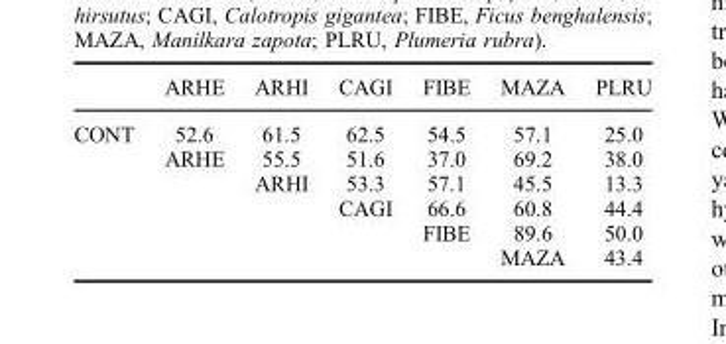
<table><thead><tr><td></td><td>ARHE</td><td>ARHI</td><td>CAGI</td><td>FIBE</td><td>MAZA</td><td>PLRU</td></tr></thead><tbody><tr><td rowspan="6">CONT</td><td>52.6</td><td>61.5</td><td>62.5</td><td>54.5</td><td>57.1</td><td>25.0</td></tr><tr><td>ARHE</td><td>55.5</td><td>51.6</td><td>37.0</td><td>69.2</td><td>38.0</td></tr><tr><td></td><td>ARHI</td><td>53.3</td><td>57.1</td><td>45.5</td><td>13.3</td></tr><tr><td></td><td></td><td>CAGI</td><td>66.6</td><td>60.8</td><td>44.4</td></tr><tr><td></td><td></td><td></td><td>FIBE</td><td>89.6</td><td>50.0</td></tr><tr><td></td><td></td><td></td><td></td><td>MAZA</td><td>43.4</td></tr></tbody></table>